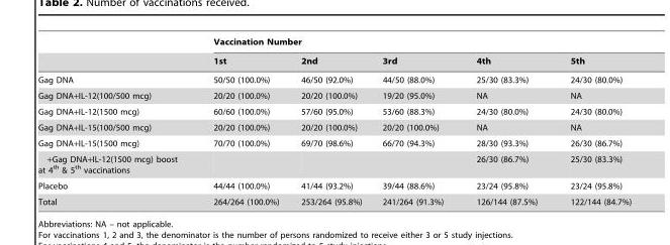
<table><thead><tr><td rowspan="2"></td><td colspan="5">Vaccination Number</td></tr><tr><td>1st</td><td>2nd</td><td>3rd</td><td>4th</td><td>5th</td></tr></thead><tbody><tr><td>Gag DNA</td><td>50/50 (100.0%)</td><td>46/50 (92.0%)</td><td>44/50 (88.0%)</td><td>25/30 (83.3%)</td><td>24/30 (80.0%)</td></tr><tr><td>Gag DNA+IL-12(100/500 mcg)</td><td>20/20 (100.0%)</td><td>20/20 (100.0%)</td><td>19/20 (95.0%)</td><td>NA</td><td>NA</td></tr><tr><td>Gag DNA+IL-12(1500 mcg)</td><td>60/60 (100.0%)</td><td>57/60 (95.0%)</td><td>53/60 (88.3%)</td><td>24/30 (80.0%)</td><td>24/30 (80.0%)</td></tr><tr><td>Gag DNA+IL-15(100/500 mcg)</td><td>20/20 (100.0%)</td><td>20/20 (100.0%)</td><td>20/20 (100.0%)</td><td>NA</td><td>NA</td></tr><tr><td>Gag DNA+IL-15(1500 mcg)</td><td>70/70 (100.0%)</td><td>69/70 (98.6%)</td><td>66/70 (94.3%)</td><td>28/30 (93.3%)</td><td>26/30 (86.7%)</td></tr><tr><td>+Gag DNA+IL-12(1500 mcg) boost at 4<sup>th</sup> &amp; 5<sup>th</sup> vaccinations</td><td></td><td></td><td></td><td>26/30 (86.7%)</td><td>25/30 (83.3%)</td></tr><tr><td>Placebo</td><td>44/44 (100.0%)</td><td>41/44 (93.2%)</td><td>39/44 (88.6%)</td><td>23/24 (95.8%)</td><td>23/24 (95.8%)</td></tr><tr><td>Total</td><td>264/264 (100.0%)</td><td>253/264 (95.8%)</td><td>241/264 (91.3%)</td><td>126/144 (87.5%)</td><td>122/144 (84.7%)</td></tr></tbody></table>